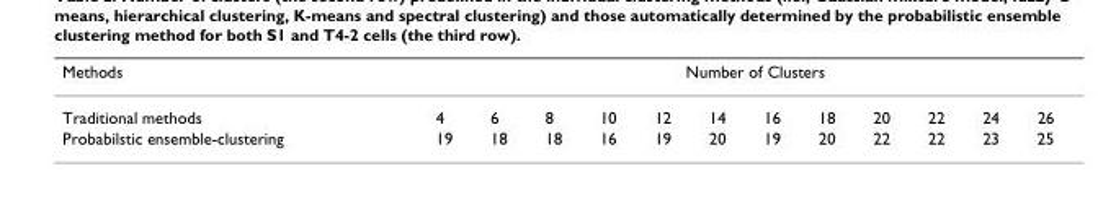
<table><thead><tr><td rowspan="2">Methods Traditional methods</td><td colspan="12">Number of Clusters</td></tr><tr><td>4</td><td>6</td><td>8</td><td>10</td><td>12</td><td>14</td><td>16</td><td>18</td><td>20</td><td>22</td><td>24</td><td>26</td></tr></thead><tbody><tr><td>Probabilstic ensemble-clustering</td><td>19</td><td>18</td><td>18</td><td>16</td><td>19</td><td>20</td><td>19</td><td>20</td><td>22</td><td>22</td><td>23</td><td>25</td></tr></tbody></table>